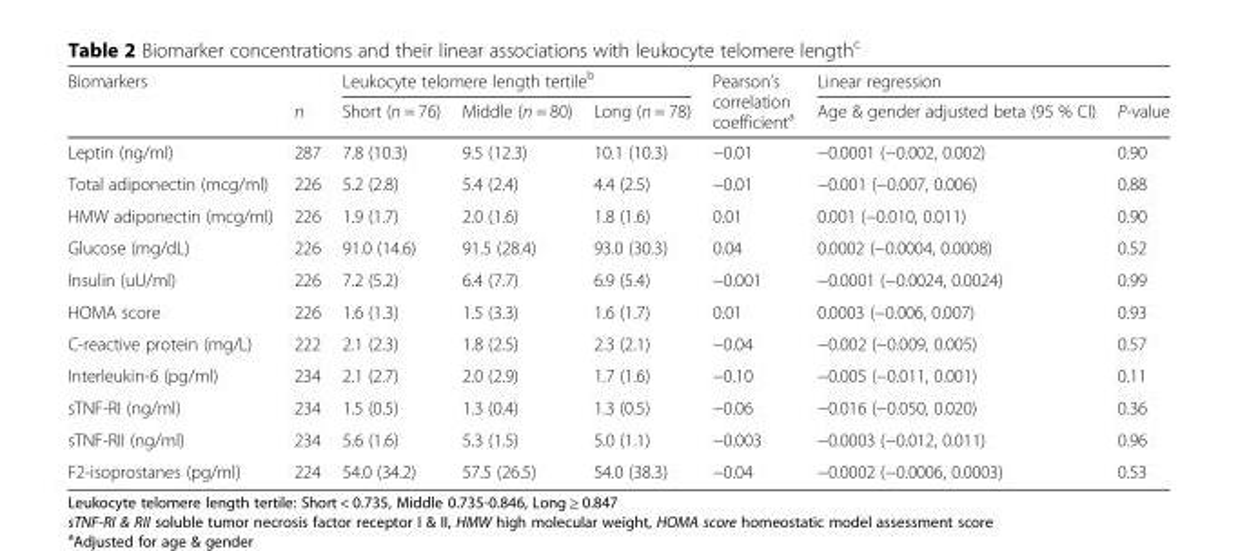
<table><thead><tr><td rowspan="2">Biomarkers</td><td rowspan="2">n</td><td colspan="3">Leukocyte telomere length tertile<sup>b</sup></td><td rowspan="2">Pearson’s correlation coefficient<sup>a</sup></td><td colspan="2">Linear regression</td></tr><tr><td>Short (n = 76)</td><td>Middle (n = 80)</td><td>Long (n = 78)</td><td>Age &amp; gender adjusted beta (95 % CI)</td><td>P-value</td></tr></thead><tbody><tr><td>Leptin (ng/ml)</td><td>287</td><td>7.8 (10.3)</td><td>9.5 (12.3)</td><td>10.1 (10.3)</td><td>−0.01</td><td>−0.0001 (−0.002, 0.002)</td><td>0.90</td></tr><tr><td>Total adiponectin (mcg/ml)</td><td>226</td><td>5.2 (2.8)</td><td>5.4 (2.4)</td><td>4.4 (2.5)</td><td>−0.01</td><td>−0.001 (−0.007, 0.006)</td><td>0.88</td></tr><tr><td>HMW adiponectin (mcg/ml)</td><td>226</td><td>1.9 (1.7)</td><td>2.0 (1.6)</td><td>1.8 (1.6)</td><td>0.01</td><td>0.001 (−0.010, 0.011)</td><td>0.90</td></tr><tr><td>Glucose (mg/dL)</td><td>226</td><td>91.0 (14.6)</td><td>91.5 (28.4)</td><td>93.0 (30.3)</td><td>0.04</td><td>0.0002 (−0.0004, 0.0008)</td><td>0.52</td></tr><tr><td>Insulin (uU/ml)</td><td>226</td><td>7.2 (5.2)</td><td>6.4 (7.7)</td><td>6.9 (5.4)</td><td>−0.001</td><td>−0.0001 (−0.0024, 0.0024)</td><td>0.99</td></tr><tr><td>HOMA score</td><td>226</td><td>1.6 (1.3)</td><td>1.5 (3.3)</td><td>1.6 (1.7)</td><td>0.01</td><td>0.0003 (−0.006, 0.007)</td><td>0.93</td></tr><tr><td>C-reactive protein (mg/L)</td><td>222</td><td>2.1 (2.3)</td><td>1.8 (2.5)</td><td>2.3 (2.1)</td><td>−0.04</td><td>−0.002 (−0.009, 0.005)</td><td>0.57</td></tr><tr><td>Interleukin-6 (pg/ml)</td><td>234</td><td>2.1 (2.7)</td><td>2.0 (2.9)</td><td>1.7 (1.6)</td><td>−0.10</td><td>−0.005 (−0.011, 0.001)</td><td>0.11</td></tr><tr><td>sTNF-RI (ng/ml)</td><td>234</td><td>1.5 (0.5)</td><td>1.3 (0.4)</td><td>1.3 (0.5)</td><td>−0.06</td><td>−0.016 (−0.050, 0.020)</td><td>0.36</td></tr><tr><td>sTNF-RII (ng/ml)</td><td>234</td><td>5.6 (1.6)</td><td>5.3 (1.5)</td><td>5.0 (1.1)</td><td>−0.003</td><td>−0.0003 (−0.012, 0.011)</td><td>0.96</td></tr><tr><td>F2-isoprostanes (pg/ml)</td><td>224</td><td>54.0 (34.2)</td><td>57.5 (26.5)</td><td>54.0 (38.3)</td><td>−0.04</td><td>−0.0002 (−0.0006, 0.0003)</td><td>0.53</td></tr></tbody></table>